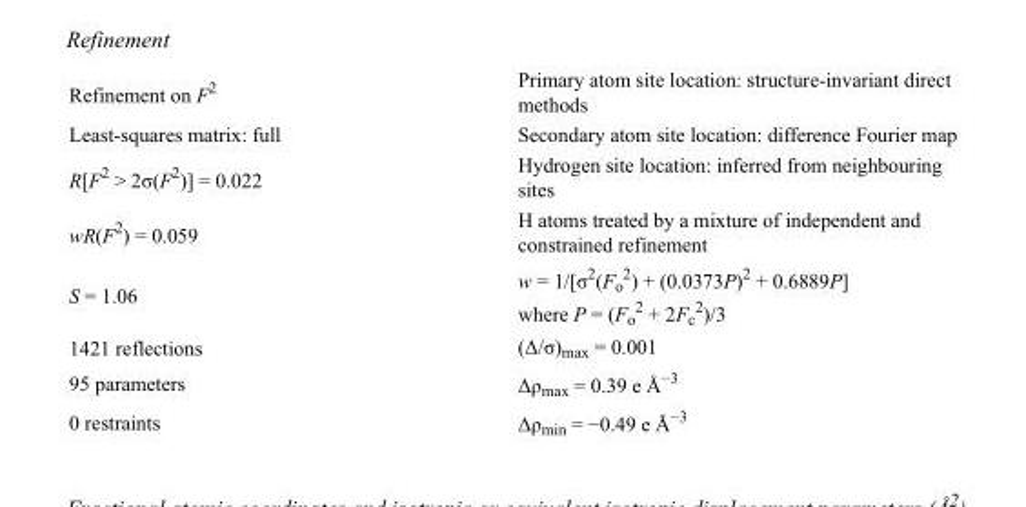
<table><tbody><tr><td>Refinement on F<sup>2</sup></td><td>Primary atom site location: structure-invariant direct methods</td></tr><tr><td>Least-squares matrix: full</td><td>Secondary atom site location: difference Fourier map</td></tr><tr><td>R[F<sup>2</sup> &gt; 2σ(F<sup>2</sup>)] = 0.022</td><td>Hydrogen site location: inferred from neighbouring sites</td></tr><tr><td>wR(F<sup>2</sup>) = 0.059</td><td>H atoms treated by a mixture of independent and constrained refinement</td></tr><tr><td>S = 1.06</td><td>w = 1/[σ<sup>2</sup>(F<sub>o</sub> <sup>2</sup>) + (0.0373P)<sup>2</sup> + 0.6889P] where P = (F<sub>o</sub> <sup>2</sup> + 2F<sub>c</sub> <sup>2</sup>)/3</td></tr><tr><td>1421 reflections</td><td>(Δ/σ)<sub>max</sub> = 0.001</td></tr><tr><td>95 parameters</td><td>Δρ<sub>max</sub> = 0.39 e Å<sup>−3</sup></td></tr><tr><td>0 restraints</td><td>Δρ<sub>min</sub> = −0.49 e Å<sup>−3</sup></td></tr></tbody></table>